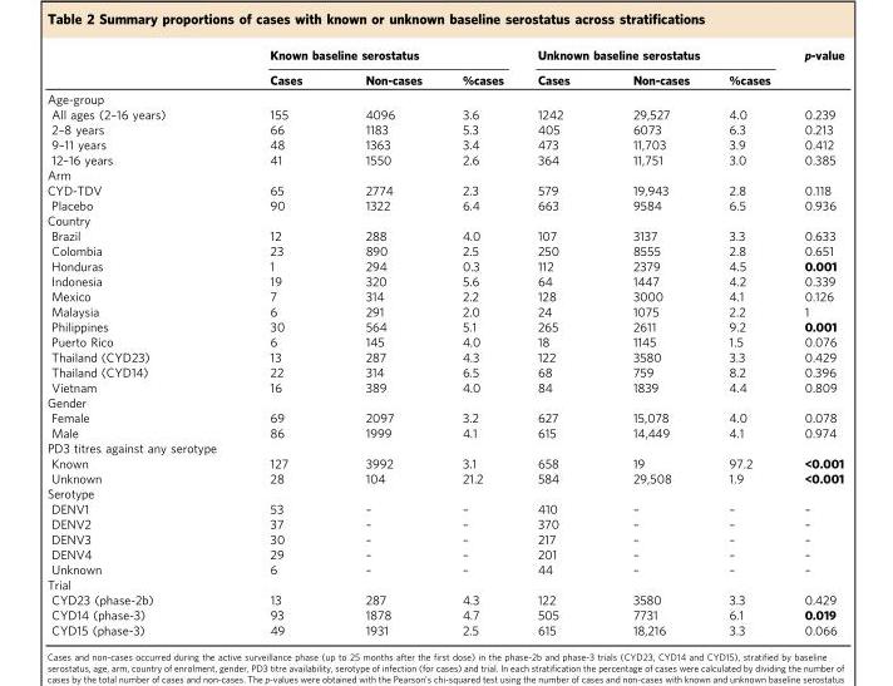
<table><thead><tr><td rowspan="2"></td><td colspan="3">Known baseline serostatus</td><td colspan="3">Unknown baseline serostatus</td><td rowspan="2">p-value</td></tr><tr><td>Cases</td><td>Non-cases</td><td>%cases</td><td>Cases</td><td>Non-cases</td><td>%cases</td></tr></thead><tbody><tr><td colspan="8">Age-group</td></tr><tr><td>All ages (2–16 years)</td><td>155</td><td>4096</td><td>3.6</td><td>1242</td><td>29,527</td><td>4.0</td><td>0.239</td></tr><tr><td>2–8 years</td><td>66</td><td>1183</td><td>5.3</td><td>405</td><td>6073</td><td>6.3</td><td>0.213</td></tr><tr><td>9–11 years</td><td>48</td><td>1363</td><td>3.4</td><td>473</td><td>11,703</td><td>3.9</td><td>0.412</td></tr><tr><td>12–16 years</td><td>41</td><td>1550</td><td>2.6</td><td>364</td><td>11,751</td><td>3.0</td><td>0.385</td></tr><tr><td colspan="8">Arm</td></tr><tr><td>CYD-TDV</td><td>65</td><td>2774</td><td>2.3</td><td>579</td><td>19,943</td><td>2.8</td><td>0.118</td></tr><tr><td>Placebo</td><td>90</td><td>1322</td><td>6.4</td><td>663</td><td>9584</td><td>6.5</td><td>0.936</td></tr><tr><td colspan="8">Country</td></tr><tr><td>Brazil</td><td>12</td><td>288</td><td>4.0</td><td>107</td><td>3137</td><td>3.3</td><td>0.633</td></tr><tr><td>Colombia</td><td>23</td><td>890</td><td>2.5</td><td>250</td><td>8555</td><td>2.8</td><td>0.651</td></tr><tr><td>Honduras</td><td>1</td><td>294</td><td>0.3</td><td>112</td><td>2379</td><td>4.5</td><td>0.001</td></tr><tr><td>Indonesia</td><td>19</td><td>320</td><td>5.6</td><td>64</td><td>1447</td><td>4.2</td><td>0.339</td></tr><tr><td>Mexico</td><td>7</td><td>314</td><td>2.2</td><td>128</td><td>3000</td><td>4.1</td><td>0.126</td></tr><tr><td>Malaysia</td><td>6</td><td>291</td><td>2.0</td><td>24</td><td>1075</td><td>2.2</td><td>1</td></tr><tr><td>Philippines</td><td>30</td><td>564</td><td>5.1</td><td>265</td><td>2611</td><td>9.2</td><td>0.001</td></tr><tr><td>Puerto Rico</td><td>6</td><td>145</td><td>4.0</td><td>18</td><td>1145</td><td>1.5</td><td>0.076</td></tr><tr><td>Thailand (CYD23)</td><td>13</td><td>287</td><td>4.3</td><td>122</td><td>3580</td><td>3.3</td><td>0.429</td></tr><tr><td>Thailand (CYD14)</td><td>22</td><td>314</td><td>6.5</td><td>68</td><td>759</td><td>8.2</td><td>0.396</td></tr><tr><td>Vietnam</td><td>16</td><td>389</td><td>4.0</td><td>84</td><td>1839</td><td>4.4</td><td>0.809</td></tr><tr><td colspan="8">Gender</td></tr><tr><td>Female</td><td>69</td><td>2097</td><td>3.2</td><td>627</td><td>15,078</td><td>4.0</td><td>0.078</td></tr><tr><td>Male</td><td>86</td><td>1999</td><td>4.1</td><td>615</td><td>14,449</td><td>4.1</td><td>0.974</td></tr><tr><td colspan="8">PD3 titres against any serotype</td></tr><tr><td>Known</td><td>127</td><td>3992</td><td>3.1</td><td>658</td><td>19</td><td>97.2</td><td>&lt;0.001</td></tr><tr><td>Unknown</td><td>28</td><td>104</td><td>21.2</td><td>584</td><td>29,508</td><td>1.9</td><td>&lt;0.001</td></tr><tr><td colspan="8">Serotype</td></tr><tr><td>DENV1</td><td>53</td><td>–</td><td>–</td><td>410</td><td>–</td><td>–</td><td>–</td></tr><tr><td>DENV2</td><td>37</td><td>–</td><td>–</td><td>370</td><td>–</td><td>–</td><td>–</td></tr><tr><td>DENV3</td><td>30</td><td>–</td><td>–</td><td>217</td><td>–</td><td>–</td><td>–</td></tr><tr><td>DENV4</td><td>29</td><td>–</td><td>–</td><td>201</td><td>–</td><td>–</td><td>–</td></tr><tr><td>Unknown</td><td>6</td><td>–</td><td>–</td><td>44</td><td>–</td><td>–</td><td>–</td></tr><tr><td colspan="8">Trial</td></tr><tr><td>CYD23 (phase-2b)</td><td>13</td><td>287</td><td>4.3</td><td>122</td><td>3580</td><td>3.3</td><td>0.429</td></tr><tr><td>CYD14 (phase-3)</td><td>93</td><td>1878</td><td>4.7</td><td>505</td><td>7731</td><td>6.1</td><td>0.019</td></tr><tr><td>CYD15 (phase-3)</td><td>49</td><td>1931</td><td>2.5</td><td>615</td><td>18,216</td><td>3.3</td><td>0.066</td></tr></tbody></table>